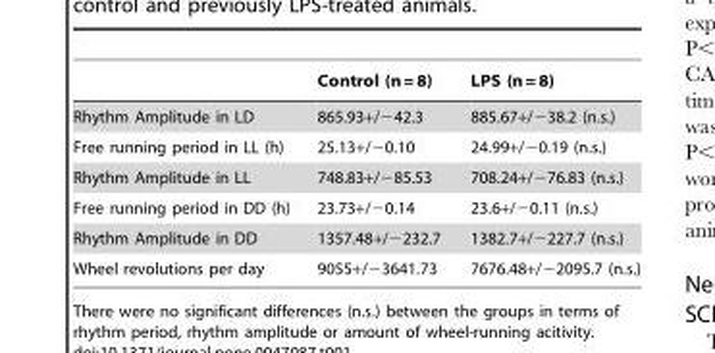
<table><thead><tr><td></td><td>Control (n = 8)</td><td>LPS (n = 8)</td></tr></thead><tbody><tr><td>Rhythm Amplitude in LD</td><td>865.93+/−42.3</td><td>885.67+/−38.2 (n.s.)</td></tr><tr><td>Free running period in LL (h)</td><td>25.13+/−0.10</td><td>24.99+/−0.19 (n.s.)</td></tr><tr><td>Rhythm Amplitude in LL</td><td>748.83+/−85.53</td><td>708.24+/−76.83 (n.s.)</td></tr><tr><td>Free running period in DD (h)</td><td>23.73+/−0.14</td><td>23.6+/−0.11 (n.s.)</td></tr><tr><td>Rhythm Amplitude in DD</td><td>1357.48+/−232.7</td><td>1382.7+/−227.7 (n.s.)</td></tr><tr><td>Wheel revolutions per day</td><td>9055+/−3641.73</td><td>7676.48+/−2095.7 (n.s.)</td></tr></tbody></table>